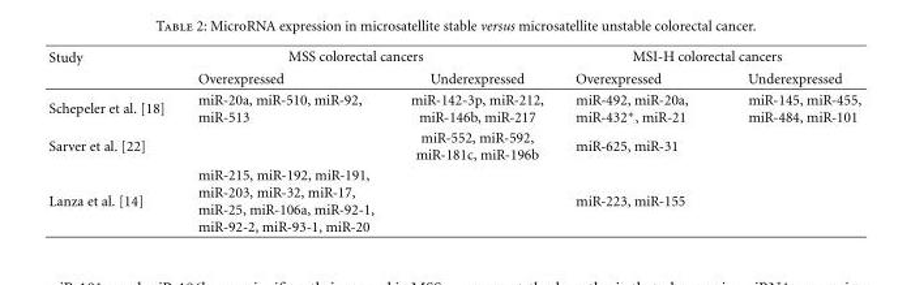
<table><thead><tr><td rowspan="2">Study</td><td colspan="2">MSS colorectal cancers</td><td colspan="2">MSI-H colorectal cancers</td></tr><tr><td>Overexpressed</td><td>Underexpressed</td><td>Overexpressed</td><td>Underexpressed</td></tr></thead><tbody><tr><td>Schepeler et al. [18]</td><td>miR-20a, miR-510, miR-92, miR-513</td><td>miR-142-3p, miR-212, miR-146b, miR-217</td><td>miR-492, miR-20a, miR-432∗, miR-21</td><td>miR-145, miR-455, miR-484, miR-101</td></tr><tr><td>Sarver et al. [22]</td><td></td><td>miR-552, miR-592, miR-181c, miR-196b</td><td>miR-625, miR-31</td><td></td></tr><tr><td>Lanza et al. [14]</td><td>miR-215, miR-192, miR-191, miR-203, miR-32, miR-17, miR-25, miR-106a, miR-92-1, miR-92-2, miR-93-1, miR-20</td><td></td><td>miR-223, miR-155</td><td></td></tr></tbody></table>